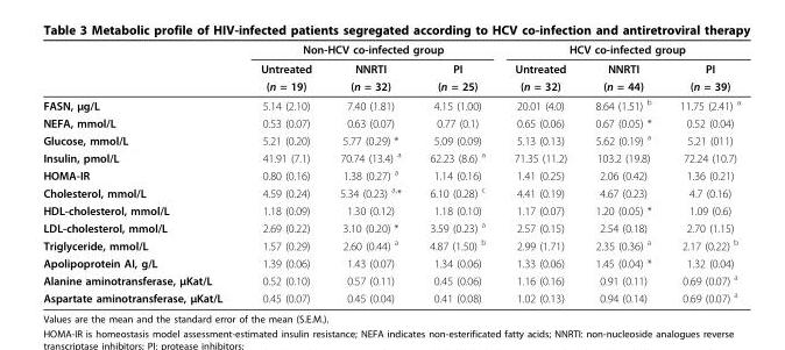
<table><thead><tr><td rowspan="3"></td><td colspan="3">Non-HCV co-infected group</td><td colspan="3">HCV co-infected group</td></tr><tr><td rowspan="2">Untreated (n = 19)</td><td rowspan="2">NNRTI (n = 32)</td><td rowspan="2">PI (n = 25)</td><td rowspan="2">Untreated (n = 32)</td><td rowspan="2">NNRTI (n = 44)</td><td rowspan="2">PI (n = 39)</td></tr><tr></tr></thead><tbody><tr><td>FASN, μg/L</td><td>5.14 (2.10)</td><td>7.40 (1.81)</td><td>4.15 (1.00)</td><td>20.01 (4.0)</td><td>8.64 (1.51) <sup>b</sup></td><td>11.75 (2.41) <sup>a</sup></td></tr><tr><td>NEFA, mmol/L</td><td>0.53 (0.07)</td><td>0.63 (0.07)</td><td>0.77 (0.1)</td><td>0.65 (0.06)</td><td>0.67 (0.05) *</td><td>0.52 (0.04)</td></tr><tr><td>Glucose, mmol/L</td><td>5.21 (0.20)</td><td>5.77 (0.29) *</td><td>5.09 (0.09)</td><td>5.13 (0.13)</td><td>5.62 (0.19) <sup>a</sup></td><td>5.21 (011)</td></tr><tr><td>Insulin, pmol/L</td><td>41.91 (7.1)</td><td>70.74 (13.4) <sup>a</sup></td><td>62.23 (8.6) <sup>a</sup></td><td>71.35 (11.2)</td><td>103.2 (19.8)</td><td>72.24 (10.7)</td></tr><tr><td>HOMA-IR</td><td>0.80 (0.16)</td><td>1.38 (0.27) <sup>a</sup></td><td>1.14 (0.16)</td><td>1.41 (0.25)</td><td>2.06 (0.42)</td><td>1.36 (0.21)</td></tr><tr><td>Cholesterol, mmol/L</td><td>4.59 (0.24)</td><td>5.34 (0.23) <sup>a,</sup>*</td><td>6.10 (0.28) <sup>c</sup></td><td>4.41 (0.19)</td><td>4.67 (0.23)</td><td>4.7 (0.16)</td></tr><tr><td>HDL-cholesterol, mmol/L</td><td>1.18 (0.09)</td><td>1.30 (0.12)</td><td>1.18 (0.10)</td><td>1.17 (0.07)</td><td>1.20 (0.05) *</td><td>1.09 (0.6)</td></tr><tr><td>LDL-cholesterol, mmol/L</td><td>2.69 (0.22)</td><td>3.10 (0.20) *</td><td>3.59 (0.23) <sup>a</sup></td><td>2.57 (0.15)</td><td>2.54 (0.18)</td><td>2.70 (1.15)</td></tr><tr><td>Triglyceride, mmol/L</td><td>1.57 (0.29)</td><td>2.60 (0.44) <sup>a</sup></td><td>4.87 (1.50) <sup>b</sup></td><td>2.99 (1.71)</td><td>2.35 (0.36) <sup>a</sup></td><td>2.17 (0.22) <sup>b</sup></td></tr><tr><td>Apolipoprotein AI, g/L</td><td>1.39 (0.06)</td><td>1.43 (0.07)</td><td>1.34 (0.06)</td><td>1.33 (0.06)</td><td>1.45 (0.04) *</td><td>1.32 (0.04)</td></tr><tr><td>Alanine aminotransferase, μKat/L</td><td>0.52 (0.10)</td><td>0.57 (0.11)</td><td>0.45 (0.06)</td><td>1.16 (0.16)</td><td>0.91 (0.11)</td><td>0.69 (0.07) <sup>a</sup></td></tr><tr><td>Aspartate aminotransferase, μKat/L</td><td>0.45 (0.07)</td><td>0.45 (0.04)</td><td>0.41 (0.08)</td><td>1.02 (0.13)</td><td>0.94 (0.14)</td><td>0.69 (0.07) <sup>a</sup></td></tr></tbody></table>